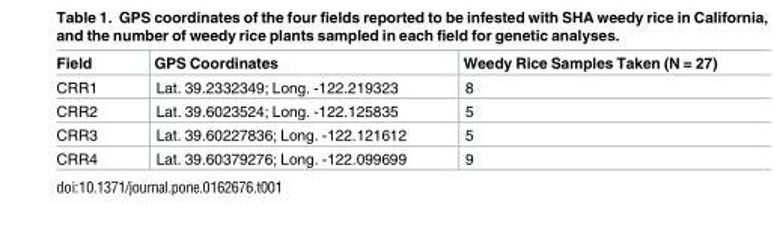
<table><thead><tr><td>Field</td><td>GPS Coordinates</td><td>Weedy Rice Samples Taken (N = 27)</td></tr></thead><tbody><tr><td>CRR1</td><td>Lat. 39.2332349; Long. -122.219323</td><td>8</td></tr><tr><td>CRR2</td><td>Lat. 39.6023524; Long. -122.125835</td><td>5</td></tr><tr><td>CRR3</td><td>Lat. 39.60227836; Long. -122.121612</td><td>5</td></tr><tr><td>CRR4</td><td>Lat. 39.60379276; Long. -122.099699</td><td>9</td></tr></tbody></table>